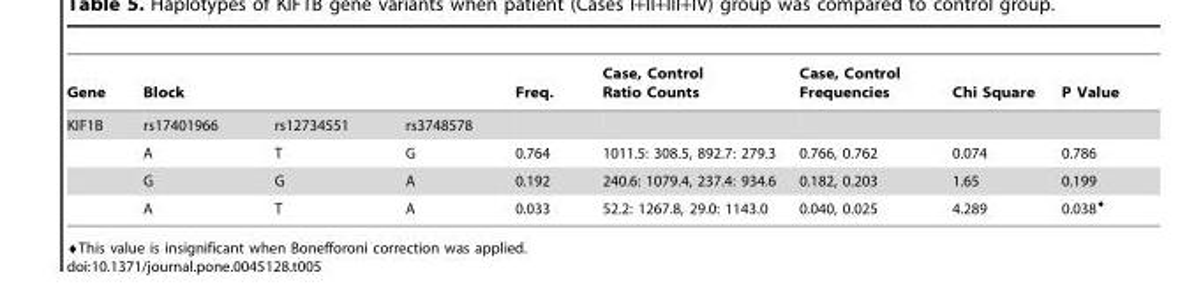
<table><thead><tr><td rowspan="2">Gene KIF1B</td><td colspan="3">Block</td><td rowspan="2">Freq.</td><td rowspan="2">Case, Control Ratio Counts</td><td rowspan="2">Case, Control Frequencies</td><td rowspan="2">Chi Square</td><td rowspan="2">P Value</td></tr><tr><td>rs17401966</td><td>rs12734551</td><td>rs3748578</td></tr></thead><tbody><tr><td></td><td>A</td><td>T</td><td>G</td><td>0.764</td><td>1011.5: 308.5, 892.7: 279.3</td><td>0.766, 0.762</td><td>0.074</td><td>0.786</td></tr><tr><td></td><td>G</td><td>G</td><td>A</td><td>0.192</td><td>240.6: 1079.4, 237.4: 934.6</td><td>0.182, 0.203</td><td>1.65</td><td>0.199</td></tr><tr><td></td><td>A</td><td>T</td><td>A</td><td>0.033</td><td>52.2: 1267.8, 29.0: 1143.0</td><td>0.040, 0.025</td><td>4.289</td><td>0.038¤</td></tr></tbody></table>